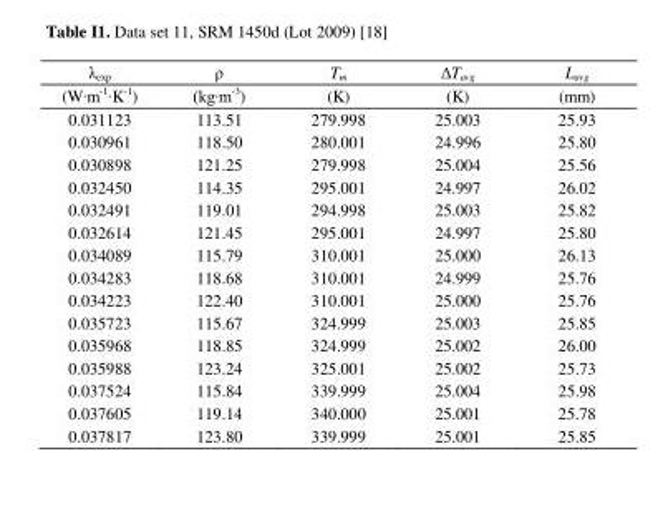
<table><thead><tr><td rowspan="2">λexp (W∙m-1∙K-1)</td><td rowspan="2">ρ (kg∙m-3)</td><td rowspan="2">Tm (K)</td><td rowspan="2">ΔTavg (K)</td><td rowspan="2">Lavg (mm)</td></tr><tr></tr></thead><tbody><tr><td>0.031123</td><td>113.51</td><td>279.998</td><td>25.003</td><td>25.93</td></tr><tr><td>0.030961</td><td>118.50</td><td>280.001</td><td>24.996</td><td>25.80</td></tr><tr><td>0.030898</td><td>121.25</td><td>279.998</td><td>25.004</td><td>25.56</td></tr><tr><td>0.032450</td><td>114.35</td><td>295.001</td><td>24.997</td><td>26.02</td></tr><tr><td>0.032491</td><td>119.01</td><td>294.998</td><td>25.003</td><td>25.82</td></tr><tr><td>0.032614</td><td>121.45</td><td>295.001</td><td>24.997</td><td>25.80</td></tr><tr><td>0.034089</td><td>115.79</td><td>310.001</td><td>25.000</td><td>26.13</td></tr><tr><td>0.034283</td><td>118.68</td><td>310.001</td><td>24.999</td><td>25.76</td></tr><tr><td>0.034223</td><td>122.40</td><td>310.001</td><td>25.000</td><td>25.76</td></tr><tr><td>0.035723</td><td>115.67</td><td>324.999</td><td>25.003</td><td>25.85</td></tr><tr><td>0.035968</td><td>118.85</td><td>324.999</td><td>25.002</td><td>26.00</td></tr><tr><td>0.035988</td><td>123.24</td><td>325.001</td><td>25.002</td><td>25.73</td></tr><tr><td>0.037524</td><td>115.84</td><td>339.999</td><td>25.004</td><td>25.98</td></tr><tr><td>0.037605</td><td>119.14</td><td>340.000</td><td>25.001</td><td>25.78</td></tr><tr><td>0.037817</td><td>123.80</td><td>339.999</td><td>25.001</td><td>25.85</td></tr></tbody></table>